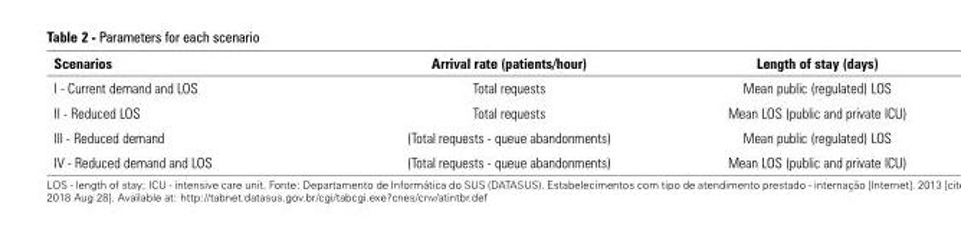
<table><thead><tr><td>Scenarios</td><td>Arrival rate (patients/hour)</td><td>Length of stay (days)</td></tr></thead><tbody><tr><td>I - Current demand and LOS</td><td>Total requests</td><td>Mean public (regulated) LOS</td></tr><tr><td>II - Reduced LOS</td><td>Total requests</td><td>Mean LOS (public and private ICU)</td></tr><tr><td>III - Reduced demand</td><td>(Total requests - queue abandonments)</td><td>Mean public (regulated) LOS</td></tr><tr><td>IV - Reduced demand and LOS</td><td>(Total requests - queue abandonments)</td><td>Mean LOS (public and private ICU)</td></tr></tbody></table>